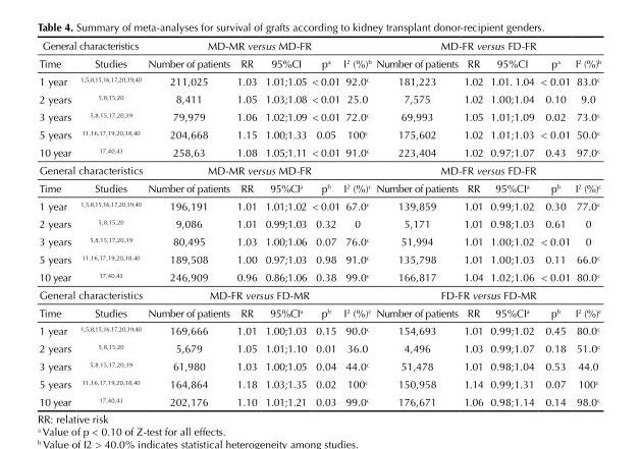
<table><thead><tr><td colspan="2">General characteristics</td><td colspan="5">MD-MR versus MD-FR</td><td colspan="5">MD-FR versus FD-FR</td></tr><tr><td>Time</td><td>Studies</td><td>Number of patients</td><td>RR</td><td>95%CI</td><td>p<sup>a</sup></td><td>I<sup>2</sup> (%)<sup>b</sup></td><td>Number of patients</td><td>RR</td><td>95%CI</td><td>p<sup>a</sup></td><td>I<sup>2</sup> (%)<sup>b</sup></td></tr></thead><tbody><tr><td>1 year</td><td><sup>1,5,8,15,16,17,20,39,40</sup></td><td>211,025</td><td>1.03</td><td>1.01;1.05</td><td>&lt; 0.01</td><td>92.0<sup>c</sup></td><td>181,223</td><td>1.02</td><td>1.01. 1.04</td><td>&lt; 0.01</td><td>83.0<sup>c</sup></td></tr><tr><td>2 years</td><td><sup>5,8,15,20</sup></td><td>8,411</td><td>1.05</td><td>1.03;1.08</td><td>&lt; 0.01</td><td>25.0</td><td>7,575</td><td>1.02</td><td>1.00;1.04</td><td>0.10</td><td>9.0</td></tr><tr><td>3 years</td><td><sup>5,8,15,17,20,39</sup></td><td>79,979</td><td>1.06</td><td>1.02;1.09</td><td>&lt; 0.01</td><td>72.0<sup>c</sup></td><td>69,993</td><td>1.05</td><td>1.01;1.09</td><td>0.02</td><td>73.0<sup>c</sup></td></tr><tr><td>5 years</td><td><sup>11,16,17,19,20,38,40</sup></td><td>204,668</td><td>1.15</td><td>1.00;1.33</td><td>0.05</td><td>100<sup>c</sup></td><td>175,602</td><td>1.02</td><td>1.01;1.03</td><td>&lt; 0.01</td><td>50.0<sup>c</sup></td></tr><tr><td>10 year</td><td><sup>17,40,43</sup></td><td>258,63</td><td>1.08</td><td>1.05;1.11</td><td>&lt; 0.01</td><td>91.0<sup>c</sup></td><td>223,404</td><td>1.02</td><td>0.97;1.07</td><td>0.43</td><td>97.0<sup>c</sup></td></tr><tr><td colspan="2">General characteristics</td><td colspan="5">MD-MR versus MD-FR</td><td colspan="5">MD-FR versus FD-FR</td></tr><tr><td>Time</td><td>Studies</td><td>Number of patients</td><td>RR</td><td>95%CI<sup>a</sup></td><td>p<sup>b</sup></td><td>I<sup>2</sup> (%)<sup>c</sup></td><td>Number of patients</td><td>RR</td><td>95%CI<sup>a</sup></td><td>p<sup>b</sup></td><td>I<sup>2</sup> (%)<sup>c</sup></td></tr><tr><td>1 year</td><td><sup>1,5,8,15,16,17,20,39,40</sup></td><td>196,191</td><td>1.01</td><td>1.01;1.02</td><td>&lt; 0.01</td><td>67.0<sup>c</sup></td><td>139,859</td><td>1.01</td><td>0.99;1.02</td><td>0.30</td><td>77.0<sup>c</sup></td></tr><tr><td>2 years</td><td><sup>5,8,15,20</sup></td><td>9,086</td><td>1.01</td><td>0.99;1.03</td><td>0.32</td><td>0</td><td>5,171</td><td>1.01</td><td>0.98;1.03</td><td>0.61</td><td>0</td></tr><tr><td>3 years</td><td><sup>5,8,15,17,20,39</sup></td><td>80,495</td><td>1.03</td><td>1.00;1.06</td><td>0.07</td><td>76.0<sup>c</sup></td><td>51,994</td><td>1.01</td><td>1.00;1.02</td><td>&lt; 0.01</td><td>0</td></tr><tr><td>5 years</td><td><sup>11,16,17,19,20,38,40</sup></td><td>189,508</td><td>1.00</td><td>0.97;1.03</td><td>0.98</td><td>91.0<sup>c</sup></td><td>135,798</td><td>1.01</td><td>1.00;1.03</td><td>0.11</td><td>66.0<sup>c</sup></td></tr><tr><td>10 year</td><td><sup>17,40,43</sup></td><td>246,909</td><td>0.96</td><td>0.86;1.06</td><td>0.38</td><td>99.0<sup>c</sup></td><td>166,817</td><td>1.04</td><td>1.02;1.06</td><td>&lt; 0.01</td><td>80.0<sup>c</sup></td></tr><tr><td colspan="2">General characteristics</td><td colspan="5">MD-FR versus FD-MR</td><td colspan="5">FD-FR versus FD-MR</td></tr><tr><td>Time</td><td>Studies</td><td>Number of patients</td><td>RR</td><td>95%CI<sup>a</sup></td><td>p<sup>b</sup></td><td>I<sup>2</sup> (%)<sup>c</sup></td><td>Number of patients</td><td>RR</td><td>95%CI<sup>a</sup></td><td>p<sup>b</sup></td><td>I<sup>2</sup> (%)<sup>c</sup></td></tr><tr><td>1 year</td><td><sup>1,5,8,15,16,17,20,39,40</sup></td><td>169,666</td><td>1.01</td><td>1.00;1.03</td><td>0.15</td><td>90.0<sup>c</sup></td><td>154,693</td><td>1.01</td><td>0.99;1.02</td><td>0.45</td><td>80.0<sup>c</sup></td></tr><tr><td>2 years</td><td><sup>5,8,15,20</sup></td><td>5,679</td><td>1.05</td><td>1.01;1.10</td><td>0.01</td><td>36.0</td><td>4,496</td><td>1.03</td><td>0.99;1.07</td><td>0.18</td><td>51.0<sup>c</sup></td></tr><tr><td>3 years</td><td><sup>5,8,15,17,20,39</sup></td><td>61,980</td><td>1.03</td><td>1.00;1.05</td><td>0.04</td><td>44.0<sup>c</sup></td><td>51,478</td><td>1.01</td><td>0.98;1.04</td><td>0.53</td><td>44.0</td></tr><tr><td>5 years</td><td><sup>11,16,17,19,20,38,40</sup></td><td>164,864</td><td>1.18</td><td>1.03;1.35</td><td>0.02</td><td>100<sup>c</sup></td><td>150,958</td><td>1.14</td><td>0.99;1.31</td><td>0.07</td><td>100<sup>c</sup></td></tr><tr><td>10 year</td><td><sup>17,40,43</sup></td><td>202,176</td><td>1.10</td><td>1.01;1.21</td><td>0.03</td><td>99.0<sup>c</sup></td><td>176,671</td><td>1.06</td><td>0.98;1.14</td><td>0.14</td><td>98.0<sup>c</sup></td></tr></tbody></table>